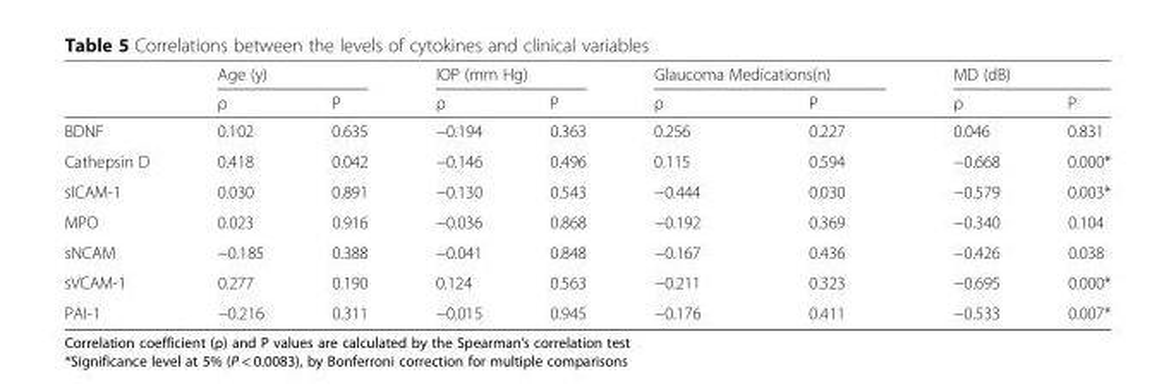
<table><thead><tr><td rowspan="2"></td><td colspan="2">Age (y)</td><td colspan="2">IOP (mm Hg)</td><td colspan="2">Glaucoma Medications(n)</td><td colspan="2">MD (dB)</td></tr><tr><td>ρ</td><td>P</td><td>ρ</td><td>P</td><td>ρ</td><td>P</td><td>ρ</td><td>P</td></tr></thead><tbody><tr><td>BDNF</td><td>0.102</td><td>0.635</td><td>−0.194</td><td>0.363</td><td>0.256</td><td>0.227</td><td>0.046</td><td>0.831</td></tr><tr><td>Cathepsin D</td><td>0.418</td><td>0.042</td><td>−0.146</td><td>0.496</td><td>0.115</td><td>0.594</td><td>−0.668</td><td>0.000*</td></tr><tr><td>sICAM-1</td><td>0.030</td><td>0.891</td><td>−0.130</td><td>0.543</td><td>−0.444</td><td>0.030</td><td>−0.579</td><td>0.003*</td></tr><tr><td>MPO</td><td>0.023</td><td>0.916</td><td>−0.036</td><td>0.868</td><td>−0.192</td><td>0.369</td><td>−0.340</td><td>0.104</td></tr><tr><td>sNCAM</td><td>−0.185</td><td>0.388</td><td>−0.041</td><td>0.848</td><td>−0.167</td><td>0.436</td><td>−0.426</td><td>0.038</td></tr><tr><td>sVCAM-1</td><td>0.277</td><td>0.190</td><td>0.124</td><td>0.563</td><td>−0.211</td><td>0.323</td><td>−0.695</td><td>0.000*</td></tr><tr><td>PAI-1</td><td>−0.216</td><td>0.311</td><td>−0.015</td><td>0.945</td><td>−0.176</td><td>0.411</td><td>−0.533</td><td>0.007*</td></tr></tbody></table>